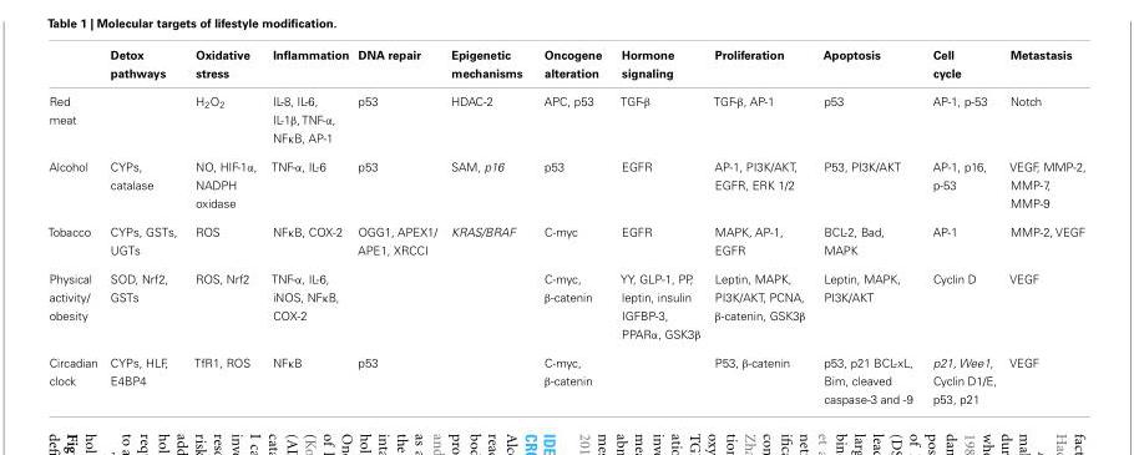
<table><thead><tr><td></td><td>Detox pathways</td><td>Oxidative stress</td><td>Inflammation</td><td>DNA repair</td><td>Epigenetic mechanisms</td><td>Oncogene alteration</td><td>Hormone signaling</td><td>Proliferation</td><td>Apoptosis</td><td>Cell cycle</td><td>Metastasis</td></tr></thead><tbody><tr><td>Red meat</td><td></td><td>H<sub>2</sub>O<sub>2</sub></td><td>IL-8, IL-6, IL-1β, TNF-α, NFκB, AP-1</td><td>p53</td><td>HDAC-2</td><td>APC, p53</td><td>TGF-β</td><td>TGF-β, AP-1</td><td>p53</td><td>AP-1, p-53</td><td>Notch</td></tr><tr><td>Alcohol</td><td>CYPs, catalase</td><td>NO, HIF-1α, NADPH oxidase</td><td>TNF-α, IL-6</td><td>p53</td><td>SAM, p16</td><td>p53</td><td>EGFR</td><td>AP-1, PI3K/AKT, EGFR, ERK 1/2</td><td>P53, PI3K/AKT</td><td>AP-1, p16, p-53</td><td>VEGF, MMP-2, MMP-7, MMP-9</td></tr><tr><td>Tobacco</td><td>CYPs, GSTs, UGTs</td><td>ROS</td><td>NFκB, COX-2</td><td>OGG1, APEX1/ APE1, XRCCI</td><td>KRAS/BRAF</td><td>C-myc</td><td>EGFR</td><td>MAPK, AP-1, EGFR</td><td>BCL-2, Bad, MAPK</td><td>AP-1</td><td>MMP-2, VEGF</td></tr><tr><td>Physical activity/ obesity</td><td>SOD, Nrf2, GSTs</td><td>ROS, Nrf2</td><td>TNF-α, IL-6, iNOS, NFκB, COX-2</td><td></td><td></td><td>C-myc, β-catenin</td><td>YY, GLP-1, PP, leptin, insulin IGFBP-3, PPARα, GSK3β</td><td>Leptin, MAPK, PI3K/AKT, PCNA, β-catenin, GSK3β</td><td>Leptin, MAPK, PI3K/AKT</td><td>Cyclin D</td><td>VEGF</td></tr><tr><td>Circadian clock</td><td>CYPs, HLF, E4BP4</td><td>TfR1, ROS</td><td>NFκB</td><td>p53</td><td></td><td>C-myc, β-catenin</td><td></td><td>P53, β-catenin</td><td>p53, p21 BCL-xL, Bim, cleaved caspase-3 and -9</td><td>p21, Wee1, Cyclin D1/E, p53, p21</td><td>VEGF</td></tr></tbody></table>